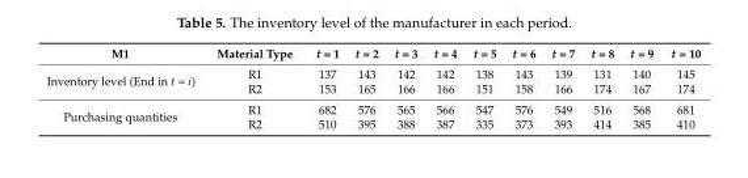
<table><thead><tr><td>M1</td><td>Material Type</td><td>t = 1</td><td>t = 2</td><td>t = 3</td><td>t = 4</td><td>t = 5</td><td>t = 6</td><td>t = 7</td><td>t = 8</td><td>t = 9</td><td>t = 10</td></tr></thead><tbody><tr><td rowspan="2">Inventory level (End in t = i)</td><td>R1</td><td>137</td><td>143</td><td>142</td><td>142</td><td>138</td><td>143</td><td>139</td><td>131</td><td>140</td><td>145</td></tr><tr><td>R2</td><td>153</td><td>165</td><td>166</td><td>166</td><td>151</td><td>158</td><td>166</td><td>174</td><td>167</td><td>174</td></tr><tr><td rowspan="2">Purchasing quantities</td><td>R1</td><td>682</td><td>576</td><td>565</td><td>566</td><td>547</td><td>576</td><td>549</td><td>516</td><td>568</td><td>681</td></tr><tr><td>R2</td><td>510</td><td>395</td><td>388</td><td>387</td><td>335</td><td>373</td><td>393</td><td>414</td><td>385</td><td>410</td></tr></tbody></table>